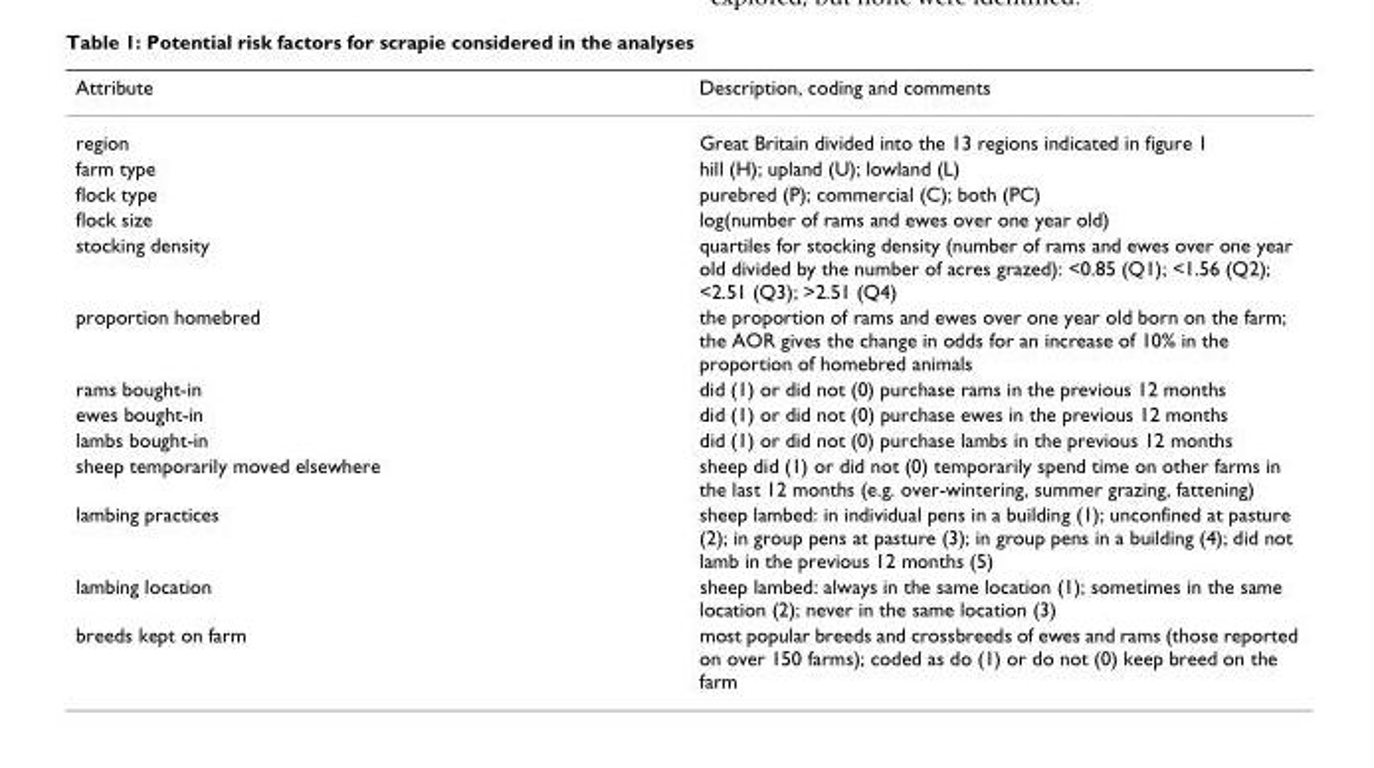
<table><thead><tr><td>Attribute</td><td>Description, coding and comments</td></tr></thead><tbody><tr><td>region</td><td>Great Britain divided into the 13 regions indicated in figure 1</td></tr><tr><td>farm type</td><td>hill (H); upland (U); lowland (L)</td></tr><tr><td>flock type</td><td>purebred (P); commercial (C); both (PC)</td></tr><tr><td>flock size</td><td>log(number of rams and ewes over one year old)</td></tr><tr><td>stocking density</td><td>quartiles for stocking density (number of rams and ewes over one year old divided by the number of acres grazed): &lt;0.85 (Q1); &lt;1.56 (Q2); &lt;2.51 (Q3); &gt;2.51 (Q4)</td></tr><tr><td>proportion homebred</td><td>the proportion of rams and ewes over one year old born on the farm; the AOR gives the change in odds for an increase of 10% in the proportion of homebred animals</td></tr><tr><td>rams bought-in</td><td>did (1) or did not (0) purchase rams in the previous 12 months</td></tr><tr><td>ewes bought-in</td><td>did (1) or did not (0) purchase ewes in the previous 12 months</td></tr><tr><td>lambs bought-in</td><td>did (1) or did not (0) purchase lambs in the previous 12 months</td></tr><tr><td>sheep temporarily moved elsewhere</td><td>sheep did (1) or did not (0) temporarily spend time on other farms in the last 12 months (e.g. over-wintering, summer grazing, fattening)</td></tr><tr><td>lambing practices</td><td>sheep lambed: in individual pens in a building (1); unconfined at pasture (2); in group pens at pasture (3); in group pens in a building (4); did not lamb in the previous 12 months (5)</td></tr><tr><td>lambing location</td><td>sheep lambed: always in the same location (1); sometimes in the same location (2); never in the same location (3)</td></tr><tr><td>breeds kept on farm</td><td>most popular breeds and crossbreeds of ewes and rams (those reported on over 150 farms); coded as do (1) or do not (0) keep breed on the farm</td></tr></tbody></table>